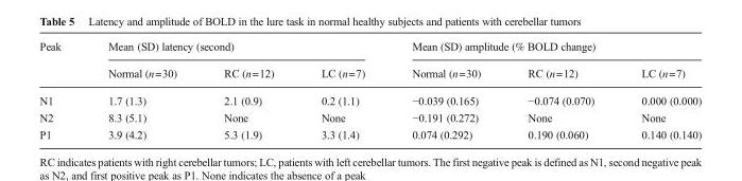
<table><thead><tr><td rowspan="2">Peak</td><td colspan="3">Mean (SD) latency (second)</td><td colspan="3">Mean (SD) amplitude (% BOLD change)</td></tr><tr><td>Normal (n=30)</td><td>RC (n=12)</td><td>LC (n=7)</td><td>Normal (n=30)</td><td>RC (n=12)</td><td>LC (n=7)</td></tr></thead><tbody><tr><td>N1</td><td>1.7 (1.3)</td><td>2.1 (0.9)</td><td>0.2 (1.1)</td><td>−0.039 (0.165)</td><td>−0.074 (0.070)</td><td>0.000 (0.000)</td></tr><tr><td>N2</td><td>8.3 (5.1)</td><td>None</td><td>None</td><td>−0.191 (0.272)</td><td>None</td><td>None</td></tr><tr><td>P1</td><td>3.9 (4.2)</td><td>5.3 (1.9)</td><td>3.3 (1.4)</td><td>0.074 (0.292)</td><td>0.190 (0.060)</td><td>0.140 (0.140)</td></tr></tbody></table>